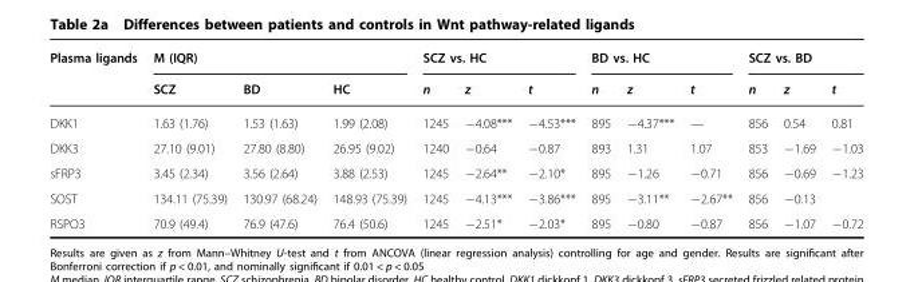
<table><thead><tr><td rowspan="2">Plasma ligands</td><td colspan="3">M (IQR)</td><td colspan="3">SCZ vs. HC</td><td colspan="3">BD vs. HC</td><td colspan="3">SCZ vs. BD</td></tr><tr><td>SCZ</td><td>BD</td><td>HC</td><td>n</td><td>z</td><td>t</td><td>n</td><td>z</td><td>t</td><td>n</td><td>z</td><td>t</td></tr></thead><tbody><tr><td>DKK1</td><td>1.63 (1.76)</td><td>1.53 (1.63)</td><td>1.99 (2.08)</td><td>1245</td><td>−4.08***</td><td>−4.53***</td><td>895</td><td>−4.37***</td><td>—</td><td>856</td><td>0.54</td><td>0.81</td></tr><tr><td>DKK3</td><td>27.10 (9.01)</td><td>27.80 (8.80)</td><td>26.95 (9.02)</td><td>1240</td><td>−0.64</td><td>−0.87</td><td>893</td><td>1.31</td><td>1.07</td><td>853</td><td>−1.69</td><td>−1.03</td></tr><tr><td>sFRP3</td><td>3.45 (2.34)</td><td>3.56 (2.64)</td><td>3.88 (2.53)</td><td>1245</td><td>−2.64**</td><td>−2.10*</td><td>895</td><td>−1.26</td><td>−0.71</td><td>856</td><td>−0.69</td><td>−1.23</td></tr><tr><td>SOST</td><td>134.11 (75.39)</td><td>130.97 (68.24)</td><td>148.93 (75.39)</td><td>1245</td><td>−4.13***</td><td>−3.86***</td><td>895</td><td>−3.11**</td><td>−2.67**</td><td>856</td><td>−0.13</td><td></td></tr><tr><td>RSPO3</td><td>70.9 (49.4)</td><td>76.9 (47.6)</td><td>76.4 (50.6)</td><td>1245</td><td>−2.51*</td><td>−2.03*</td><td>895</td><td>−0.80</td><td>−0.87</td><td>856</td><td>−1.07</td><td>−0.72</td></tr></tbody></table>